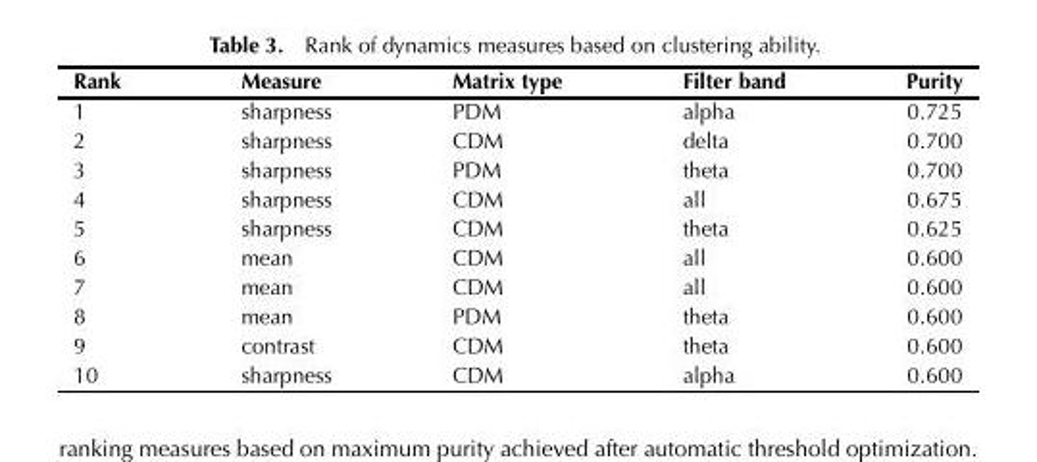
<table><thead><tr><td>Rank</td><td>Measure</td><td>Matrix type</td><td>Filter band</td><td>Purity</td></tr></thead><tbody><tr><td>1</td><td>sharpness</td><td>PDM</td><td>alpha</td><td>0.725</td></tr><tr><td>2</td><td>sharpness</td><td>CDM</td><td>delta</td><td>0.700</td></tr><tr><td>3</td><td>sharpness</td><td>PDM</td><td>theta</td><td>0.700</td></tr><tr><td>4</td><td>sharpness</td><td>CDM</td><td>all</td><td>0.675</td></tr><tr><td>5</td><td>sharpness</td><td>CDM</td><td>theta</td><td>0.625</td></tr><tr><td>6</td><td>mean</td><td>CDM</td><td>all</td><td>0.600</td></tr><tr><td>7</td><td>mean</td><td>CDM</td><td>all</td><td>0.600</td></tr><tr><td>8</td><td>mean</td><td>PDM</td><td>theta</td><td>0.600</td></tr><tr><td>9</td><td>contrast</td><td>CDM</td><td>theta</td><td>0.600</td></tr><tr><td>10</td><td>sharpness</td><td>CDM</td><td>alpha</td><td>0.600</td></tr></tbody></table>